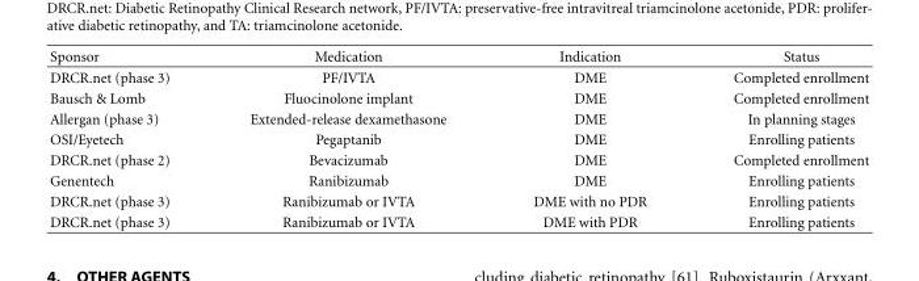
<table><tbody><tr><td>Sponsor</td><td>Medication</td><td>Indication</td><td>Status</td></tr><tr><td>DRCR.net (phase 3)</td><td>PF/IVTA</td><td>DME</td><td>Completed enrollment</td></tr><tr><td>Bausch &amp; Lomb</td><td>Fluocinolone implant</td><td>DME</td><td>Completed enrollment</td></tr><tr><td>Allergan (phase 3)</td><td>Extended-release dexamethasone</td><td>DME</td><td>In planning stages</td></tr><tr><td>OSI/Eyetech</td><td>Pegaptanib</td><td>DME</td><td>Enrolling patients</td></tr><tr><td>DRCR.net (phase 2)</td><td>Bevacizumab</td><td>DME</td><td>Completed enrollment</td></tr><tr><td>Genentech</td><td>Ranibizumab</td><td>DME</td><td>Enrolling patients</td></tr><tr><td>DRCR.net (phase 3)</td><td>Ranibizumab or IVTA</td><td>DME with no PDR</td><td>Enrolling patients</td></tr><tr><td>DRCR.net (phase 3)</td><td>Ranibizumab or IVTA</td><td>DME with PDR</td><td>Enrolling patients</td></tr></tbody></table>